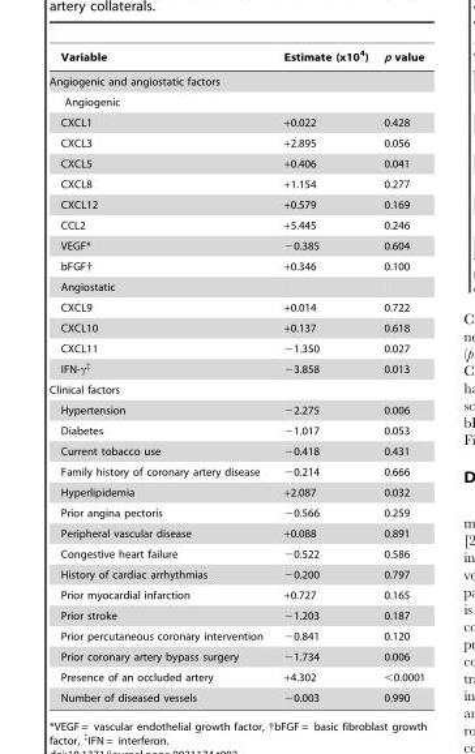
<table><thead><tr><td>Variable</td><td>Estimate (x10<sup>4</sup>)</td><td>p value</td></tr></thead><tbody><tr><td colspan="3">Angiogenic and angiostatic factors</td></tr><tr><td colspan="3">Angiogenic</td></tr><tr><td>CXCL1</td><td>+0.022</td><td>0.428</td></tr><tr><td>CXCL3</td><td>+2.895</td><td>0.056</td></tr><tr><td>CXCL5</td><td>+0.406</td><td>0.041</td></tr><tr><td>CXCL8</td><td>+1.154</td><td>0.277</td></tr><tr><td>CXCL12</td><td>+0.579</td><td>0.169</td></tr><tr><td>CCL2</td><td>+5.445</td><td>0.246</td></tr><tr><td>VEGF*</td><td>−0.385</td><td>0.604</td></tr><tr><td>bFGF†</td><td>+0.346</td><td>0.100</td></tr><tr><td colspan="3">Angiostatic</td></tr><tr><td>CXCL9</td><td>+0.014</td><td>0.722</td></tr><tr><td>CXCL10</td><td>+0.137</td><td>0.618</td></tr><tr><td>CXCL11</td><td>−1.350</td><td>0.027</td></tr><tr><td>IFN-γ<sup>‡</sup></td><td>−3.858</td><td>0.013</td></tr><tr><td colspan="3">Clinical factors</td></tr><tr><td>Hypertension</td><td>−2.275</td><td>0.006</td></tr><tr><td>Diabetes</td><td>−1.017</td><td>0.053</td></tr><tr><td>Current tobacco use</td><td>−0.418</td><td>0.431</td></tr><tr><td>Family history of coronary artery disease</td><td>−0.214</td><td>0.666</td></tr><tr><td>Hyperlipidemia</td><td>+2.087</td><td>0.032</td></tr><tr><td>Prior angina pectoris</td><td>−0.566</td><td>0.259</td></tr><tr><td>Peripheral vascular disease</td><td>+0.088</td><td>0.891</td></tr><tr><td>Congestive heart failure</td><td>−0.522</td><td>0.586</td></tr><tr><td>History of cardiac arrhythmias</td><td>−0.200</td><td>0.797</td></tr><tr><td>Prior myocardial infarction</td><td>+0.727</td><td>0.165</td></tr><tr><td>Prior stroke</td><td>−1.203</td><td>0.187</td></tr><tr><td>Prior percutaneous coronary intervention</td><td>−0.841</td><td>0.120</td></tr><tr><td>Prior coronary artery bypass surgery</td><td>−1.734</td><td>0.006</td></tr><tr><td>Presence of an occluded artery</td><td>+4.302</td><td>&lt;0.0001</td></tr><tr><td>Number of diseased vessels</td><td>−0.003</td><td>0.990</td></tr></tbody></table>